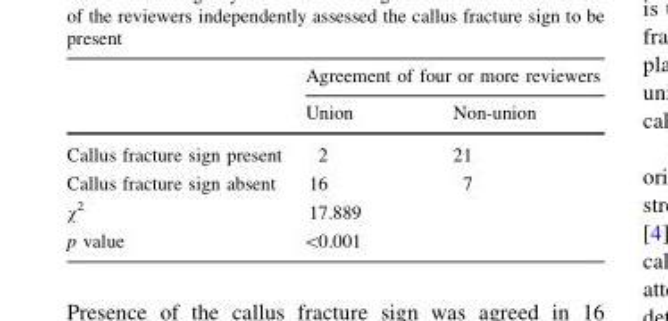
<table><thead><tr><td rowspan="2"></td><td colspan="2">Agreement of four or more reviewers</td></tr><tr><td>Union</td><td>Non-union</td></tr></thead><tbody><tr><td>Callus fracture sign present</td><td>2</td><td>21</td></tr><tr><td>Callus fracture sign absent</td><td>16</td><td>7</td></tr><tr><td>χ<sup>2</sup></td><td>17.889</td><td></td></tr><tr><td>p value</td><td>&lt;0.001</td><td></td></tr></tbody></table>